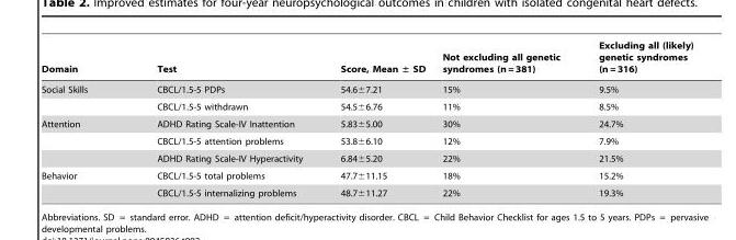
<table><thead><tr><td>Domain</td><td>Test</td><td>Score, Mean ± SD</td><td>Not excluding all genetic syndromes (n = 381)</td><td>Excluding all (likely) genetic syndromes (n = 316)</td></tr></thead><tbody><tr><td rowspan="2">Social Skills</td><td>CBCL/1.5-5 PDPs</td><td>54.6±7.21</td><td>15%</td><td>9.5%</td></tr><tr><td>CBCL/1.5-5 withdrawn</td><td>54.5±6.76</td><td>11%</td><td>8.5%</td></tr><tr><td rowspan="3">Attention</td><td>ADHD Rating Scale-IV Inattention</td><td>5.83±5.00</td><td>30%</td><td>24.7%</td></tr><tr><td>CBCL/1.5-5 attention problems</td><td>53.8±6.10</td><td>12%</td><td>7.9%</td></tr><tr><td>ADHD Rating Scale-IV Hyperactivity</td><td>6.84±5.20</td><td>22%</td><td>21.5%</td></tr><tr><td rowspan="2">Behavior</td><td>CBCL/1.5-5 total problems</td><td>47.7±11.15</td><td>18%</td><td>15.2%</td></tr><tr><td>CBCL/1.5-5 internalizing problems</td><td>48.7±11.27</td><td>22%</td><td>19.3%</td></tr></tbody></table>